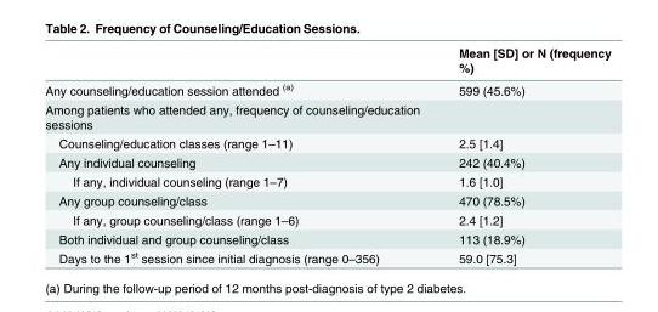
<table><thead><tr><td></td><td>Mean [SD] or N (frequency %)</td></tr></thead><tbody><tr><td>Any counseling/education session attended <sup>(a)</sup></td><td>599 (45.6%)</td></tr><tr><td colspan="2">Among patients who attended any, frequency of counseling/education sessions</td></tr><tr><td>Counseling/education classes (range 1–11)</td><td>2.5 [1.4]</td></tr><tr><td>Any individual counseling</td><td>242 (40.4%)</td></tr><tr><td>If any, individual counseling (range 1–7)</td><td>1.6 [1.0]</td></tr><tr><td>Any group counseling/class</td><td>470 (78.5%)</td></tr><tr><td>If any, group counseling/class (range 1–6)</td><td>2.4 [1.2]</td></tr><tr><td>Both individual and group counseling/class</td><td>113 (18.9%)</td></tr><tr><td>Days to the 1<sup>st</sup> session since initial diagnosis (range 0–356)</td><td>59.0 [75.3]</td></tr></tbody></table>